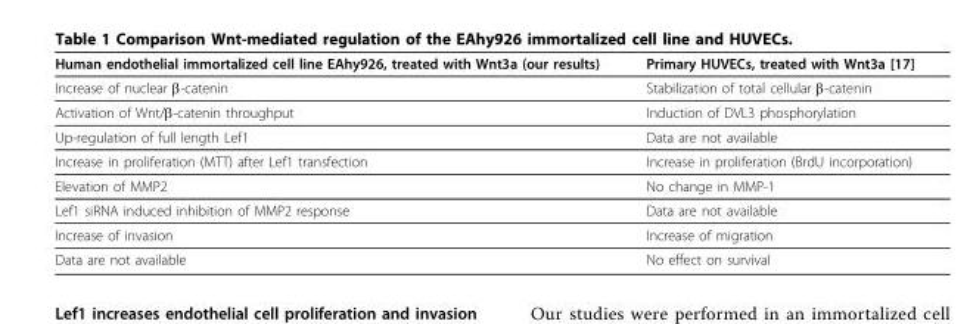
<table><thead><tr><td>Human endothelial immortalized cell line EAhy926, treated with Wnt3a (our results)</td><td>Primary HUVECs, treated with Wnt3a [17]</td></tr></thead><tbody><tr><td>Increase of nuclear β-catenin</td><td>Stabilization of total cellular β-catenin</td></tr><tr><td>Activation of Wnt/β-catenin throughput</td><td>Induction of DVL3 phosphorylation</td></tr><tr><td>Up-regulation of full length Lef1</td><td>Data are not available</td></tr><tr><td>Increase in proliferation (MTT) after Lef1 transfection</td><td>Increase in proliferation (BrdU incorporation)</td></tr><tr><td>Elevation of MMP2</td><td>No change in MMP-1</td></tr><tr><td>Lef1 siRNA induced inhibition of MMP2 response</td><td>Data are not available</td></tr><tr><td>Increase of invasion</td><td>Increase of migration</td></tr><tr><td>Data are not available</td><td>No effect on survival</td></tr></tbody></table>